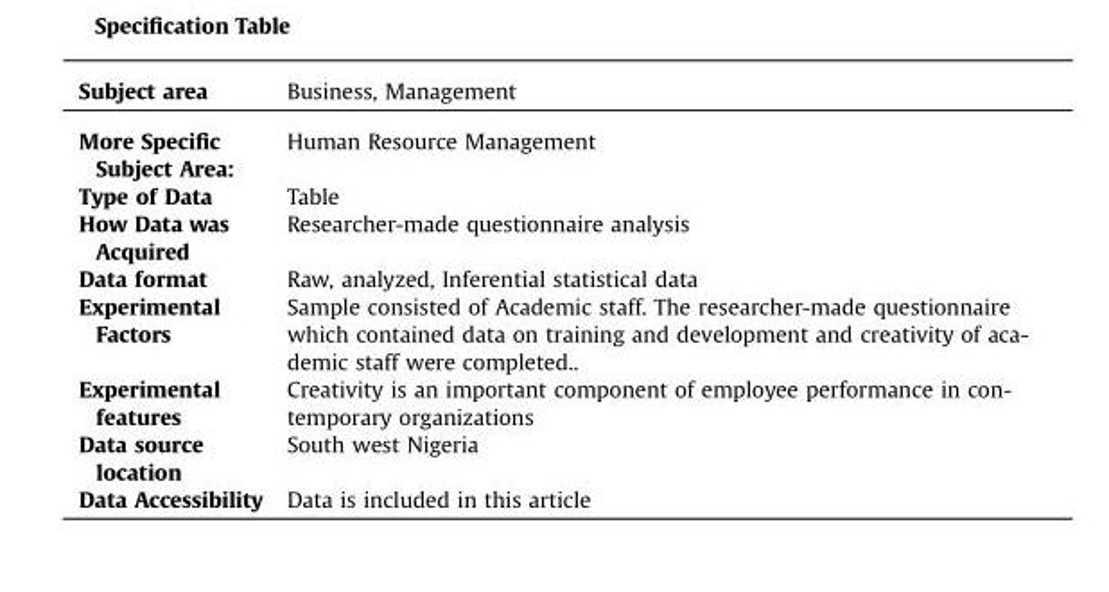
<table><thead><tr><td>Subject area</td><td>Business, Management</td></tr></thead><tbody><tr><td>More Specific Subject Area:</td><td>Human Resource Management</td></tr><tr><td>Type of Data</td><td>Table</td></tr><tr><td>How Data was Acquired</td><td>Researcher-made questionnaire analysis</td></tr><tr><td>Data format</td><td>Raw, analyzed, Inferential statistical data</td></tr><tr><td>Experimental Factors</td><td>Sample consisted of Academic staff. The researcher-made questionnaire which contained data on training and development and creativity of aca- demic staff were completed..</td></tr><tr><td>Experimental features</td><td>Creativity is an important component of employee performance in con- temporary organizations</td></tr><tr><td>Data source location</td><td>South west Nigeria</td></tr><tr><td>Data Accessibility</td><td>Data is included in this article</td></tr></tbody></table>